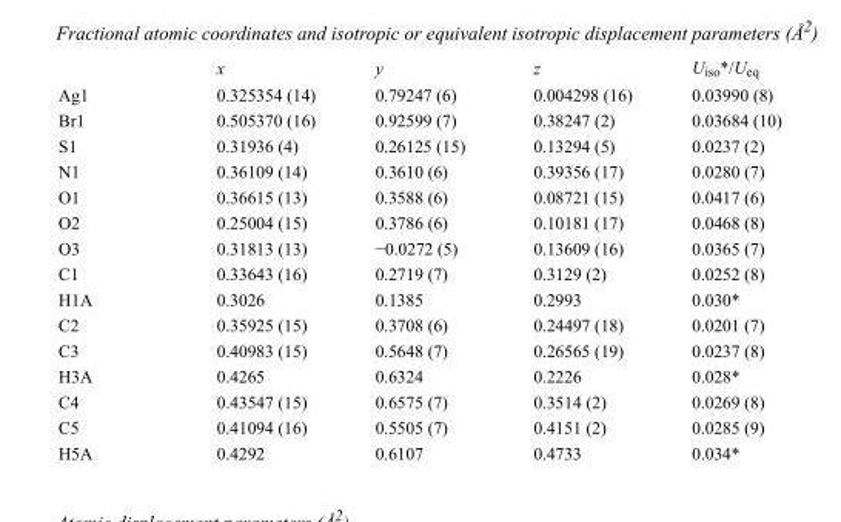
<table><thead><tr><td></td><td>x</td><td>y</td><td>z</td><td>U<sub>iso</sub>*/U<sub>eq</sub></td></tr></thead><tbody><tr><td>Ag1</td><td>0.325354 (14)</td><td>0.79247 (6)</td><td>0.004298 (16)</td><td>0.03990 (8)</td></tr><tr><td>Br1</td><td>0.505370 (16)</td><td>0.92599 (7)</td><td>0.38247 (2)</td><td>0.03684 (10)</td></tr><tr><td>S1</td><td>0.31936 (4)</td><td>0.26125 (15)</td><td>0.13294 (5)</td><td>0.0237 (2)</td></tr><tr><td>N1</td><td>0.36109 (14)</td><td>0.3610 (6)</td><td>0.39356 (17)</td><td>0.0280 (7)</td></tr><tr><td>O1</td><td>0.36615 (13)</td><td>0.3588 (6)</td><td>0.08721 (15)</td><td>0.0417 (6)</td></tr><tr><td>O2</td><td>0.25004 (15)</td><td>0.3786 (6)</td><td>0.10181 (17)</td><td>0.0468 (8)</td></tr><tr><td>O3</td><td>0.31813 (13)</td><td>−0.0272 (5)</td><td>0.13609 (16)</td><td>0.0365 (7)</td></tr><tr><td>C1</td><td>0.33643 (16)</td><td>0.2719 (7)</td><td>0.3129 (2)</td><td>0.0252 (8)</td></tr><tr><td>H1A</td><td>0.3026</td><td>0.1385</td><td>0.2993</td><td>0.030*</td></tr><tr><td>C2</td><td>0.35925 (15)</td><td>0.3708 (6)</td><td>0.24497 (18)</td><td>0.0201 (7)</td></tr><tr><td>C3</td><td>0.40983 (15)</td><td>0.5648 (7)</td><td>0.26565 (19)</td><td>0.0237 (8)</td></tr><tr><td>H3A</td><td>0.4265</td><td>0.6324</td><td>0.2226</td><td>0.028*</td></tr><tr><td>C4</td><td>0.43547 (15)</td><td>0.6575 (7)</td><td>0.3514 (2)</td><td>0.0269 (8)</td></tr><tr><td>C5</td><td>0.41094 (16)</td><td>0.5505 (7)</td><td>0.4151 (2)</td><td>0.0285 (9)</td></tr><tr><td>H5A</td><td>0.4292</td><td>0.6107</td><td>0.4733</td><td>0.034*</td></tr></tbody></table>